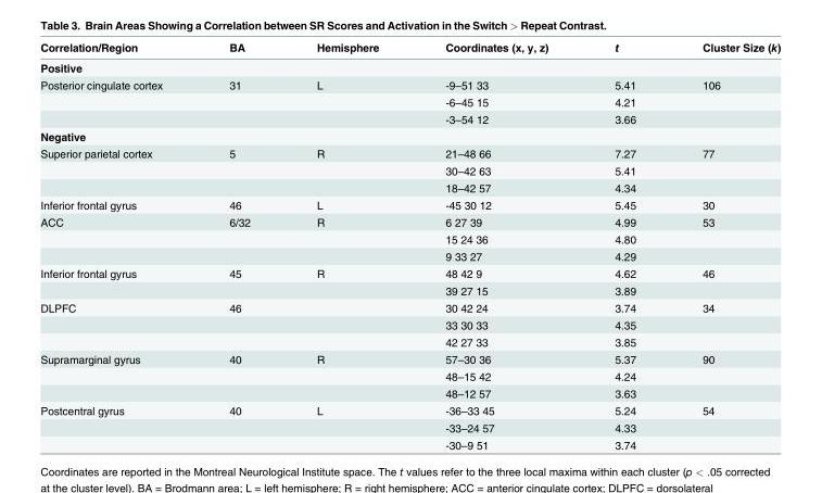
<table><thead><tr><td>Correlation/Region</td><td>BA</td><td>Hemisphere</td><td>Coordinates (x, y, z)</td><td>t</td><td>Cluster Size (k)</td></tr></thead><tbody><tr><td colspan="6">Positive</td></tr><tr><td rowspan="3">Posterior cingulate cortex</td><td>31</td><td>L</td><td>-9–51 33</td><td>5.41</td><td>106</td></tr><tr><td></td><td></td><td>-6–45 15</td><td>4.21</td><td></td></tr><tr><td></td><td></td><td>-3–54 12</td><td>3.66</td><td></td></tr><tr><td colspan="6">Negative</td></tr><tr><td rowspan="3">Superior parietal cortex</td><td>5</td><td>R</td><td>21–48 66</td><td>7.27</td><td>77</td></tr><tr><td></td><td></td><td>30–42 63</td><td>5.41</td><td></td></tr><tr><td></td><td></td><td>18–42 57</td><td>4.34</td><td></td></tr><tr><td>Inferior frontal gyrus</td><td>46</td><td>L</td><td>-45 30 12</td><td>5.45</td><td>30</td></tr><tr><td rowspan="3">ACC</td><td>6/32</td><td>R</td><td>6 27 39</td><td>4.99</td><td>53</td></tr><tr><td></td><td></td><td>15 24 36</td><td>4.80</td><td></td></tr><tr><td></td><td></td><td>9 33 27</td><td>4.29</td><td></td></tr><tr><td rowspan="2">Inferior frontal gyrus</td><td>45</td><td>R</td><td>48 42 9</td><td>4.62</td><td>46</td></tr><tr><td></td><td></td><td>39 27 15</td><td>3.89</td><td></td></tr><tr><td rowspan="3">DLPFC</td><td>46</td><td></td><td>30 42 24</td><td>3.74</td><td>34</td></tr><tr><td></td><td></td><td>33 30 33</td><td>4.35</td><td></td></tr><tr><td></td><td></td><td>42 27 33</td><td>3.85</td><td></td></tr><tr><td rowspan="3">Supramarginal gyrus</td><td>40</td><td>R</td><td>57–30 36</td><td>5.37</td><td>90</td></tr><tr><td></td><td></td><td>48–15 42</td><td>4.24</td><td></td></tr><tr><td></td><td></td><td>48–12 57</td><td>3.63</td><td></td></tr><tr><td rowspan="3">Postcentral gyrus</td><td>40</td><td>L</td><td>-36–33 45</td><td>5.24</td><td>54</td></tr><tr><td></td><td></td><td>-33–24 57</td><td>4.33</td><td></td></tr><tr><td></td><td></td><td>-30–9 51</td><td>3.74</td><td></td></tr></tbody></table>